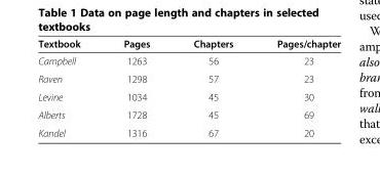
<table><thead><tr><td>Textbook</td><td>Pages</td><td>Chapters</td><td>Pages/chapter</td></tr></thead><tbody><tr><td>Campbell</td><td>1263</td><td>56</td><td>23</td></tr><tr><td>Raven</td><td>1298</td><td>57</td><td>23</td></tr><tr><td>Levine</td><td>1034</td><td>45</td><td>30</td></tr><tr><td>Alberts</td><td>1728</td><td>45</td><td>69</td></tr><tr><td>Kandel</td><td>1316</td><td>67</td><td>20</td></tr></tbody></table>